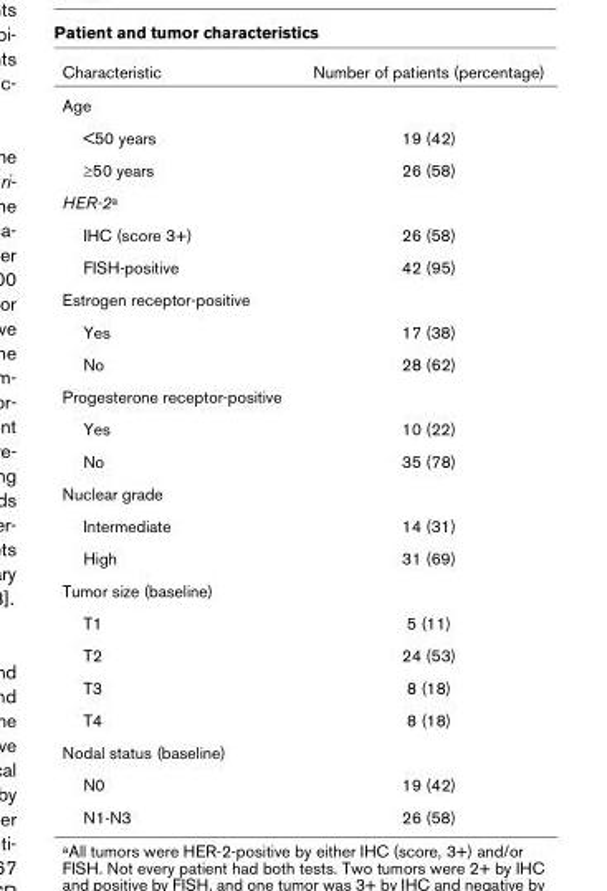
<table><thead><tr><td>Characteristic</td><td>Number of patients (percentage)</td></tr></thead><tbody><tr><td colspan="2">Age</td></tr><tr><td>&lt;50 years</td><td>19 (42)</td></tr><tr><td>≥50 years</td><td>26 (58)</td></tr><tr><td colspan="2">HER-2<sup>a</sup></td></tr><tr><td>IHC (score 3+)</td><td>26 (58)</td></tr><tr><td>FISH-positive</td><td>42 (95)</td></tr><tr><td colspan="2">Estrogen receptor-positive</td></tr><tr><td>Yes</td><td>17 (38)</td></tr><tr><td>No</td><td>28 (62)</td></tr><tr><td colspan="2">Progesterone receptor-positive</td></tr><tr><td>Yes</td><td>10 (22)</td></tr><tr><td>No</td><td>35 (78)</td></tr><tr><td colspan="2">Nuclear grade</td></tr><tr><td>Intermediate</td><td>14 (31)</td></tr><tr><td>High</td><td>31 (69)</td></tr><tr><td colspan="2">Tumor size (baseline)</td></tr><tr><td>T1</td><td>5 (11)</td></tr><tr><td>T2</td><td>24 (53)</td></tr><tr><td>T3</td><td>8 (18)</td></tr><tr><td>T4</td><td>8 (18)</td></tr><tr><td colspan="2">Nodal status (baseline)</td></tr><tr><td>N0</td><td>19 (42)</td></tr><tr><td>N1-N3</td><td>26 (58)</td></tr></tbody></table>